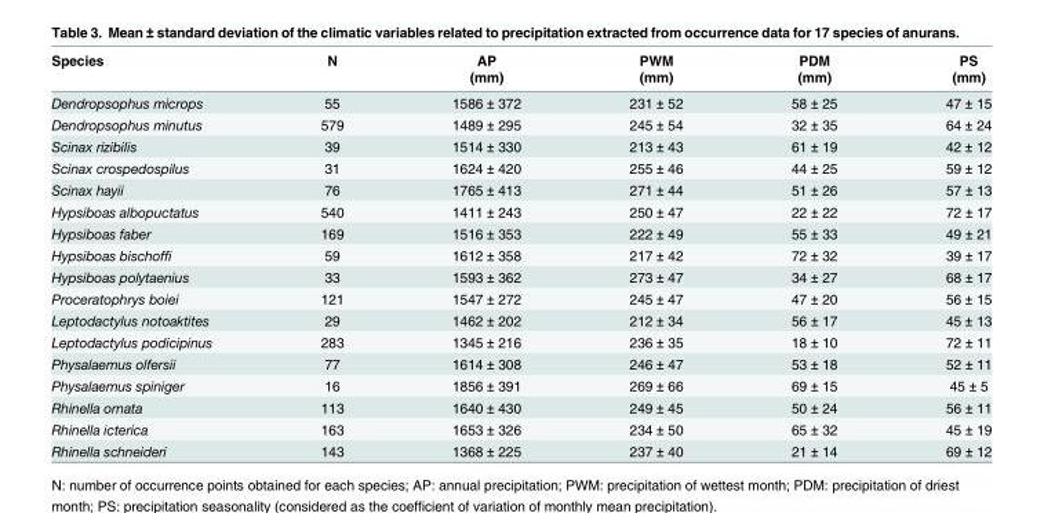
<table><thead><tr><td rowspan="2">Species</td><td rowspan="2">N</td><td rowspan="2">AP (mm)</td><td rowspan="2">PWM (mm)</td><td rowspan="2">PDM (mm)</td><td rowspan="2">PS (mm)</td></tr><tr></tr></thead><tbody><tr><td>Dendropsophus microps</td><td>55</td><td>1586 ± 372</td><td>231 ± 52</td><td>58 ± 25</td><td>47 ± 15</td></tr><tr><td>Dendropsophus minutus</td><td>579</td><td>1489 ± 295</td><td>245 ± 54</td><td>32 ± 35</td><td>64 ± 24</td></tr><tr><td>Scinax rizibilis</td><td>39</td><td>1514 ± 330</td><td>213 ± 43</td><td>61 ± 19</td><td>42 ± 12</td></tr><tr><td>Scinax crospedospilus</td><td>31</td><td>1624 ± 420</td><td>255 ± 46</td><td>44 ± 25</td><td>59 ± 12</td></tr><tr><td>Scinax hayii</td><td>76</td><td>1765 ± 413</td><td>271 ± 44</td><td>51 ± 26</td><td>57 ± 13</td></tr><tr><td>Hypsiboas albopuctatus</td><td>540</td><td>1411 ± 243</td><td>250 ± 47</td><td>22 ± 22</td><td>72 ± 17</td></tr><tr><td>Hypsiboas faber</td><td>169</td><td>1516 ± 353</td><td>222 ± 49</td><td>55 ± 33</td><td>49 ± 21</td></tr><tr><td>Hypsiboas bischoffi</td><td>59</td><td>1612 ± 358</td><td>217 ± 42</td><td>72 ± 32</td><td>39 ± 17</td></tr><tr><td>Hypsiboas polytaenius</td><td>33</td><td>1593 ± 362</td><td>273 ± 47</td><td>34 ± 27</td><td>68 ± 17</td></tr><tr><td>Proceratophrys boiei</td><td>121</td><td>1547 ± 272</td><td>245 ± 47</td><td>47 ± 20</td><td>56 ± 15</td></tr><tr><td>Leptodactylus notoaktites</td><td>29</td><td>1462 ± 202</td><td>212 ± 34</td><td>56 ± 17</td><td>45 ± 13</td></tr><tr><td>Leptodactylus podicipinus</td><td>283</td><td>1345 ± 216</td><td>236 ± 35</td><td>18 ± 10</td><td>72 ± 11</td></tr><tr><td>Physalaemus olfersii</td><td>77</td><td>1614 ± 308</td><td>246 ± 47</td><td>53 ± 18</td><td>52 ± 11</td></tr><tr><td>Physalaemus spiniger</td><td>16</td><td>1856 ± 391</td><td>269 ± 66</td><td>69 ± 15</td><td>45 ± 5</td></tr><tr><td>Rhinella ornata</td><td>113</td><td>1640 ± 430</td><td>249 ± 45</td><td>50 ± 24</td><td>56 ± 11</td></tr><tr><td>Rhinella icterica</td><td>163</td><td>1653 ± 326</td><td>234 ± 50</td><td>65 ± 32</td><td>45 ± 19</td></tr><tr><td>Rhinella schneideri</td><td>143</td><td>1368 ± 225</td><td>237 ± 40</td><td>21 ± 14</td><td>69 ± 12</td></tr></tbody></table>